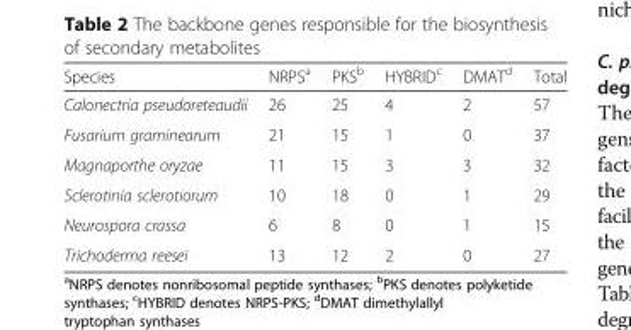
<table><thead><tr><td>Species</td><td>NRPS<sup>a</sup></td><td>PKS<sup>b</sup></td><td>HYBRID<sup>c</sup></td><td>DMAT<sup>d</sup></td><td>Total</td></tr></thead><tbody><tr><td>Calonectria pseudoreteaudii</td><td>26</td><td>25</td><td>4</td><td>2</td><td>57</td></tr><tr><td>Fusarium graminearum</td><td>21</td><td>15</td><td>1</td><td>0</td><td>37</td></tr><tr><td>Magnaporthe oryzae</td><td>11</td><td>15</td><td>3</td><td>3</td><td>32</td></tr><tr><td>Sclerotinia sclerotiorum</td><td>10</td><td>18</td><td>0</td><td>1</td><td>29</td></tr><tr><td>Neurospora crassa</td><td>6</td><td>8</td><td>0</td><td>1</td><td>15</td></tr><tr><td>Trichoderma reesei</td><td>13</td><td>12</td><td>2</td><td>0</td><td>27</td></tr></tbody></table>